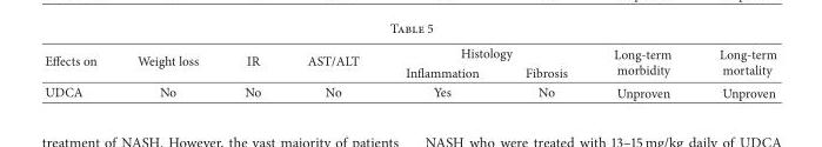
<table><thead><tr><td rowspan="2">Effects on</td><td rowspan="2">Weight loss</td><td rowspan="2">IR</td><td rowspan="2">AST/ALT</td><td colspan="2">Histology</td><td rowspan="2">Long-term morbidity</td><td rowspan="2">Long-term mortality</td></tr><tr><td>Inflammation</td><td>Fibrosis</td></tr></thead><tbody><tr><td>UDCA</td><td>No</td><td>No</td><td>No</td><td>Yes</td><td>No</td><td>Unproven</td><td>Unproven</td></tr></tbody></table>